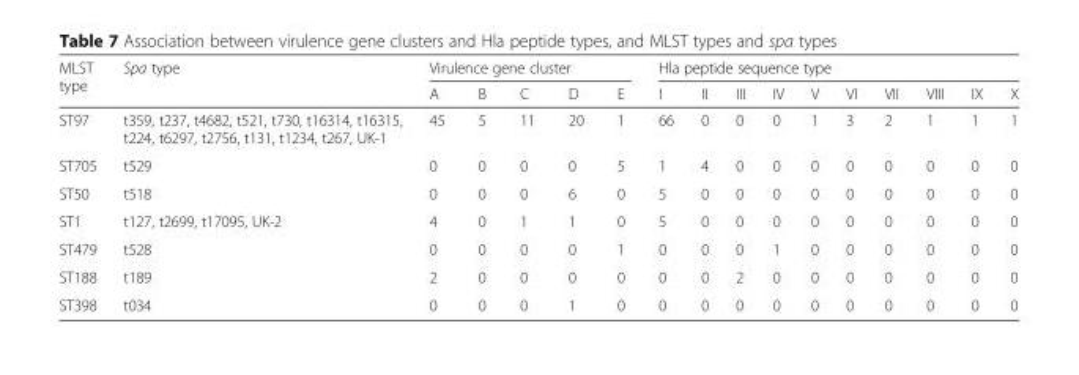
<table><thead><tr><td rowspan="2">MLST type</td><td rowspan="2">Spa type</td><td colspan="5">Virulence gene cluster</td><td colspan="10">Hla peptide sequence type</td></tr><tr><td>A</td><td>B</td><td>C</td><td>D</td><td>E</td><td>I</td><td>II</td><td>III</td><td>IV</td><td>V</td><td>VI</td><td>VII</td><td>VIII</td><td>IX</td><td>X</td></tr></thead><tbody><tr><td>ST97</td><td>t359, t237, t4682, t521, t730, t16314, t16315, t224, t6297, t2756, t131, t1234, t267, UK-1</td><td>45</td><td>5</td><td>11</td><td>20</td><td>1</td><td>66</td><td>0</td><td>0</td><td>0</td><td>1</td><td>3</td><td>2</td><td>1</td><td>1</td><td>1</td></tr><tr><td>ST705</td><td>t529</td><td>0</td><td>0</td><td>0</td><td>0</td><td>5</td><td>1</td><td>4</td><td>0</td><td>0</td><td>0</td><td>0</td><td>0</td><td>0</td><td>0</td><td>0</td></tr><tr><td>ST50</td><td>t518</td><td>0</td><td>0</td><td>0</td><td>6</td><td>0</td><td>5</td><td>0</td><td>0</td><td>0</td><td>0</td><td>0</td><td>0</td><td>0</td><td>0</td><td>0</td></tr><tr><td>ST1</td><td>t127, t2699, t17095, UK-2</td><td>4</td><td>0</td><td>1</td><td>1</td><td>0</td><td>5</td><td>0</td><td>0</td><td>0</td><td>0</td><td>0</td><td>0</td><td>0</td><td>0</td><td>0</td></tr><tr><td>ST479</td><td>t528</td><td>0</td><td>0</td><td>0</td><td>0</td><td>1</td><td>0</td><td>0</td><td>0</td><td>1</td><td>0</td><td>0</td><td>0</td><td>0</td><td>0</td><td>0</td></tr><tr><td>ST188</td><td>t189</td><td>2</td><td>0</td><td>0</td><td>0</td><td>0</td><td>0</td><td>0</td><td>2</td><td>0</td><td>0</td><td>0</td><td>0</td><td>0</td><td>0</td><td>0</td></tr><tr><td>ST398</td><td>t034</td><td>0</td><td>0</td><td>0</td><td>1</td><td>0</td><td>0</td><td>0</td><td>0</td><td>0</td><td>0</td><td>0</td><td>0</td><td>0</td><td>0</td><td>0</td></tr></tbody></table>